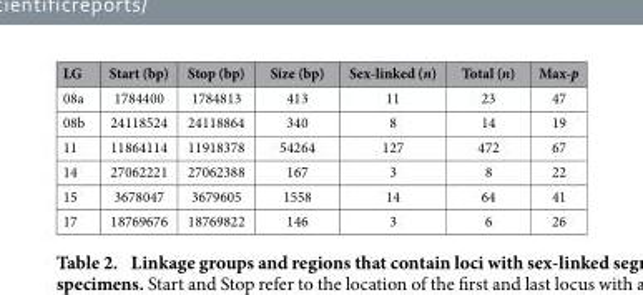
<table><thead><tr><td>LG</td><td>Start (bp)</td><td>Stop (bp)</td><td>Size (bp)</td><td>Sex-linked (n)</td><td>Total (n)</td><td>Max-p</td></tr></thead><tbody><tr><td>08a</td><td>1784400</td><td>1784813</td><td>413</td><td>11</td><td>23</td><td>47</td></tr><tr><td>08b</td><td>24118524</td><td>24118864</td><td>340</td><td>8</td><td>14</td><td>19</td></tr><tr><td>11</td><td>11864114</td><td>11918378</td><td>54264</td><td>127</td><td>472</td><td>67</td></tr><tr><td>14</td><td>27062221</td><td>27062388</td><td>167</td><td>3</td><td>8</td><td>22</td></tr><tr><td>15</td><td>3678047</td><td>3679605</td><td>1558</td><td>14</td><td>64</td><td>41</td></tr><tr><td>17</td><td>18769676</td><td>18769822</td><td>146</td><td>3</td><td>6</td><td>26</td></tr></tbody></table>